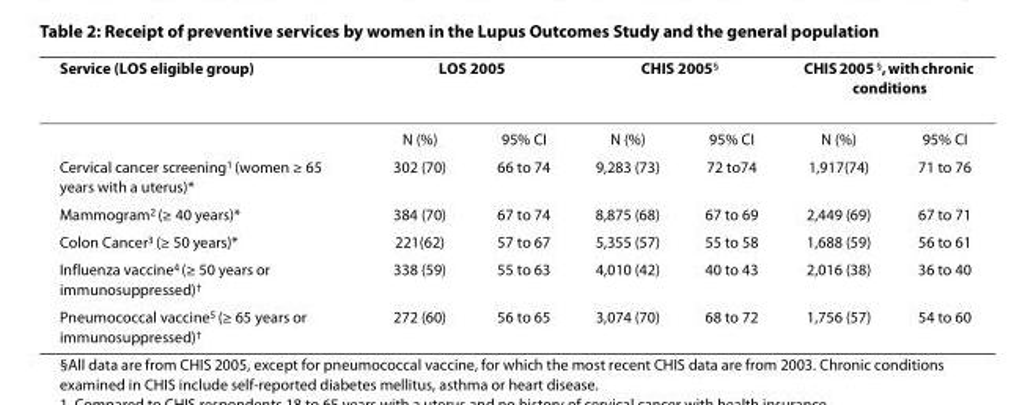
<table><thead><tr><td rowspan="2">Service (LOS eligible group)</td><td colspan="2">LOS 2005</td><td colspan="2">CHIS 2005<sup>§</sup></td><td colspan="2">CHIS 2005 <sup>§</sup>, with chronic conditions</td></tr><tr><td>N (%)</td><td>95% CI</td><td>N (%)</td><td>95% CI</td><td>N (%)</td><td>95% CI</td></tr></thead><tbody><tr><td>Cervical cancer screening<sup>1</sup> (women ≥ 65 years with a uterus)*</td><td>302 (70)</td><td>66 to 74</td><td>9,283 (73)</td><td>72 to74</td><td>1,917(74)</td><td>71 to 76</td></tr><tr><td>Mammogram<sup>2</sup> (≥ 40 years)*</td><td>384 (70)</td><td>67 to 74</td><td>8,875 (68)</td><td>67 to 69</td><td>2,449 (69)</td><td>67 to 71</td></tr><tr><td>Colon Cancer<sup>3</sup> (≥ 50 years)*</td><td>221(62)</td><td>57 to 67</td><td>5,355 (57)</td><td>55 to 58</td><td>1,688 (59)</td><td>56 to 61</td></tr><tr><td>Influenza vaccine<sup>4</sup> (≥ 50 years or immunosuppressed)<sup>†</sup></td><td>338 (59)</td><td>55 to 63</td><td>4,010 (42)</td><td>40 to 43</td><td>2,016 (38)</td><td>36 to 40</td></tr><tr><td>Pneumococcal vaccine<sup>5</sup> (≥ 65 years or immunosuppressed)<sup>†</sup></td><td>272 (60)</td><td>56 to 65</td><td>3,074 (70)</td><td>68 to 72</td><td>1,756 (57)</td><td>54 to 60</td></tr></tbody></table>